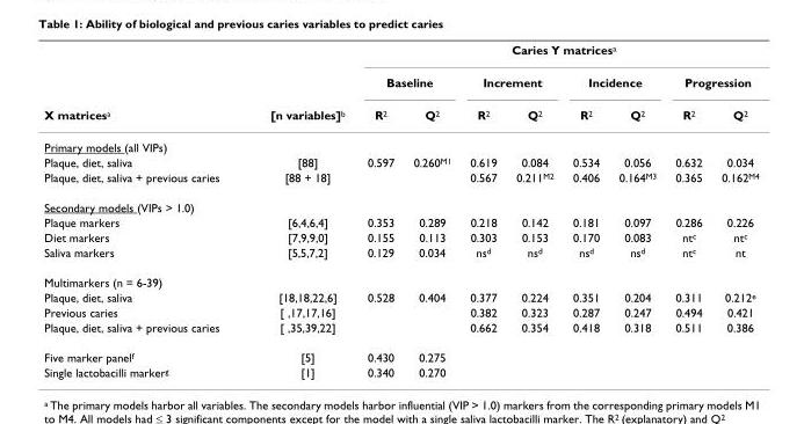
<table><thead><tr><td rowspan="3">X matrices<sup>a</sup></td><td rowspan="3">[n variables]<sup>b</sup></td><td colspan="8">Caries Y matrices<sup>a</sup></td></tr><tr><td colspan="2">Baseline</td><td colspan="2">Increment</td><td colspan="2">Incidence</td><td colspan="2">Progression</td></tr><tr><td>R<sup>2</sup></td><td>Q<sup>2</sup></td><td>R<sup>2</sup></td><td>Q<sup>2</sup></td><td>R<sup>2</sup></td><td>Q<sup>2</sup></td><td>R<sup>2</sup></td><td>Q<sup>2</sup></td></tr></thead><tbody><tr><td colspan="10">Primary models (all VIPs)</td></tr><tr><td>Plaque, diet, saliva</td><td>[88]</td><td>0.597</td><td>0.260<sup>M1</sup></td><td>0.619</td><td>0.084</td><td>0.534</td><td>0.056</td><td>0.632</td><td>0.034</td></tr><tr><td>Plaque, diet, saliva + previous caries</td><td>[88 + 18]</td><td></td><td></td><td>0.567</td><td>0.211<sup>M2</sup></td><td>0.406</td><td>0.164<sup>M3</sup></td><td>0.365</td><td>0.162<sup>M4</sup></td></tr><tr><td colspan="10">Secondary models (VIPs &gt; 1.0)</td></tr><tr><td>Plaque markers</td><td>[6,4,6,4]</td><td>0.353</td><td>0.289</td><td>0.218</td><td>0.142</td><td>0.181</td><td>0.097</td><td>0.286</td><td>0.226</td></tr><tr><td>Diet markers</td><td>[7,9,9,0]</td><td>0.155</td><td>0.113</td><td>0.303</td><td>0.153</td><td>0.170</td><td>0.083</td><td>nt<sup>c</sup></td><td>nt<sup>c</sup></td></tr><tr><td>Saliva markers</td><td>[5,5,7,2]</td><td>0.129</td><td>0.034</td><td>ns<sup>d</sup></td><td>ns<sup>d</sup></td><td>ns<sup>d</sup></td><td>ns<sup>d</sup></td><td>nt<sup>c</sup></td><td>nt</td></tr><tr><td colspan="10">Multimarkers (n = 6-39)</td></tr><tr><td>Plaque, diet, saliva</td><td>[18,18,22,6]</td><td>0.528</td><td>0.404</td><td>0.377</td><td>0.224</td><td>0.351</td><td>0.204</td><td>0.311</td><td>0.212<sup>e</sup></td></tr><tr><td>Previous caries</td><td>[ ,17,17,16]</td><td></td><td></td><td>0.382</td><td>0.323</td><td>0.287</td><td>0.247</td><td>0.494</td><td>0.421</td></tr><tr><td>Plaque, diet, saliva + previous caries</td><td>[ ,35,39,22]</td><td></td><td></td><td>0.662</td><td>0.354</td><td>0.418</td><td>0.318</td><td>0.511</td><td>0.386</td></tr><tr><td>Five marker panel<sup>f</sup></td><td>[5]</td><td>0.430</td><td>0.275</td><td></td><td></td><td></td><td></td><td></td><td></td></tr><tr><td>Single lactobacilli marker<sup>g</sup></td><td>[1]</td><td>0.340</td><td>0.270</td><td></td><td></td><td></td><td></td><td></td><td></td></tr></tbody></table>